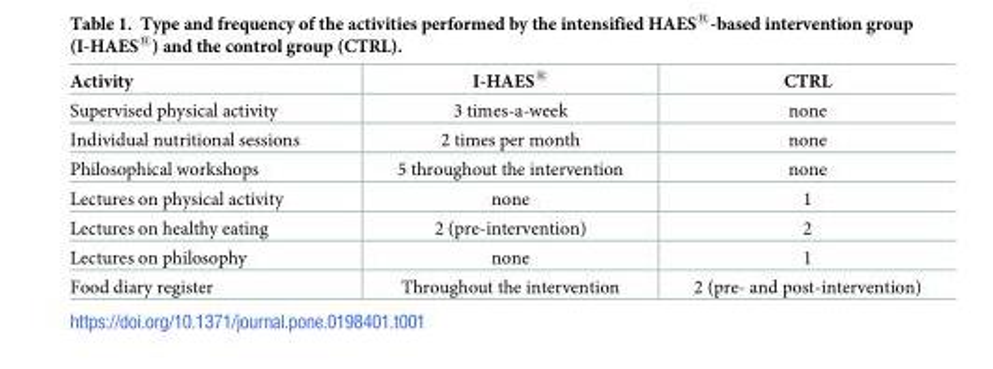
<table><thead><tr><td>Activity</td><td>I-HAES<sup>®</sup></td><td>CTRL</td></tr></thead><tbody><tr><td>Supervised physical activity</td><td>3 times-a-week</td><td>none</td></tr><tr><td>Individual nutritional sessions</td><td>2 times per month</td><td>none</td></tr><tr><td>Philosophical workshops</td><td>5 throughout the intervention</td><td>none</td></tr><tr><td>Lectures on physical activity</td><td>none</td><td>1</td></tr><tr><td>Lectures on healthy eating</td><td>2 (pre-intervention)</td><td>2</td></tr><tr><td>Lectures on philosophy</td><td>none</td><td>1</td></tr><tr><td>Food diary register</td><td>Throughout the intervention</td><td>2 (pre- and post-intervention)</td></tr></tbody></table>